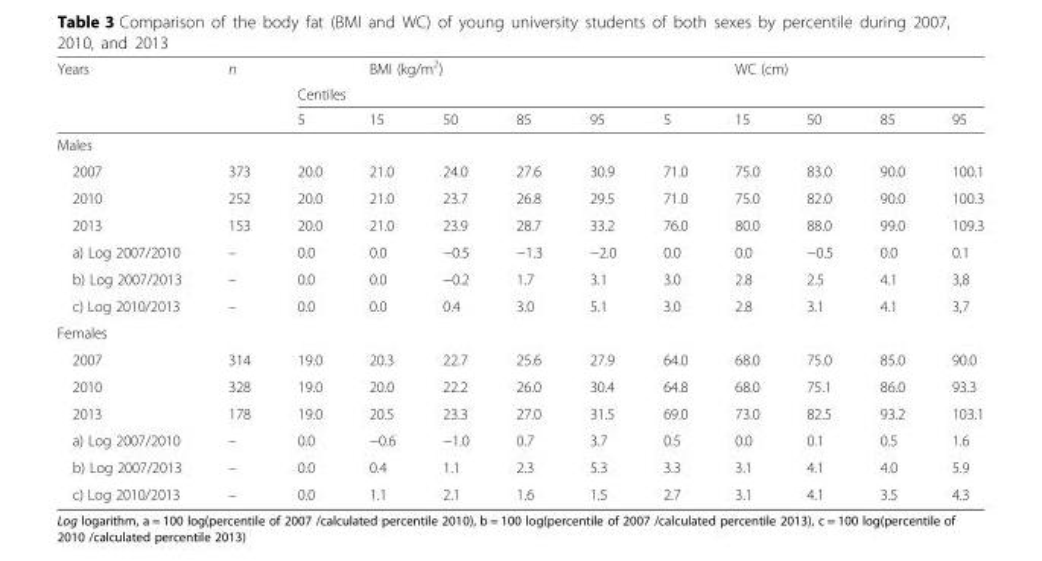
<table><thead><tr><td rowspan="3">Years</td><td rowspan="3">n</td><td></td><td colspan="4">BMI (kg/m<sup>2</sup>)</td><td></td><td colspan="4">WC (cm)</td></tr><tr><td colspan="10">Centiles</td></tr><tr><td>5</td><td>15</td><td>50</td><td>85</td><td>95</td><td>5</td><td>15</td><td>50</td><td>85</td><td>95</td></tr></thead><tbody><tr><td colspan="12">Males</td></tr><tr><td>2007</td><td>373</td><td>20.0</td><td>21.0</td><td>24.0</td><td>27.6</td><td>30.9</td><td>71.0</td><td>75.0</td><td>83.0</td><td>90.0</td><td>100.1</td></tr><tr><td>2010</td><td>252</td><td>20.0</td><td>21.0</td><td>23.7</td><td>26.8</td><td>29.5</td><td>71.0</td><td>75.0</td><td>82.0</td><td>90.0</td><td>100.3</td></tr><tr><td>2013</td><td>153</td><td>20.0</td><td>21.0</td><td>23.9</td><td>28.7</td><td>33.2</td><td>76.0</td><td>80.0</td><td>88.0</td><td>99.0</td><td>109.3</td></tr><tr><td>a) Log 2007/2010</td><td>–</td><td>0.0</td><td>0.0</td><td>−0.5</td><td>−1.3</td><td>−2.0</td><td>0.0</td><td>0.0</td><td>−0.5</td><td>0.0</td><td>0.1</td></tr><tr><td>b) Log 2007/2013</td><td>–</td><td>0.0</td><td>0.0</td><td>−0.2</td><td>1.7</td><td>3.1</td><td>3.0</td><td>2.8</td><td>2.5</td><td>4.1</td><td>3,8</td></tr><tr><td>c) Log 2010/2013</td><td>–</td><td>0.0</td><td>0.0</td><td>0.4</td><td>3.0</td><td>5.1</td><td>3.0</td><td>2.8</td><td>3.1</td><td>4.1</td><td>3,7</td></tr><tr><td colspan="12">Females</td></tr><tr><td>2007</td><td>314</td><td>19.0</td><td>20.3</td><td>22.7</td><td>25.6</td><td>27.9</td><td>64.0</td><td>68.0</td><td>75.0</td><td>85.0</td><td>90.0</td></tr><tr><td>2010</td><td>328</td><td>19.0</td><td>20.0</td><td>22.2</td><td>26.0</td><td>30.4</td><td>64.8</td><td>68.0</td><td>75.1</td><td>86.0</td><td>93.3</td></tr><tr><td>2013</td><td>178</td><td>19.0</td><td>20.5</td><td>23.3</td><td>27.0</td><td>31.5</td><td>69.0</td><td>73.0</td><td>82.5</td><td>93.2</td><td>103.1</td></tr><tr><td>a) Log 2007/2010</td><td>–</td><td>0.0</td><td>−0.6</td><td>−1.0</td><td>0.7</td><td>3.7</td><td>0.5</td><td>0.0</td><td>0.1</td><td>0.5</td><td>1.6</td></tr><tr><td>b) Log 2007/2013</td><td>–</td><td>0.0</td><td>0.4</td><td>1.1</td><td>2.3</td><td>5.3</td><td>3.3</td><td>3.1</td><td>4.1</td><td>4.0</td><td>5.9</td></tr><tr><td>c) Log 2010/2013</td><td>–</td><td>0.0</td><td>1.1</td><td>2.1</td><td>1.6</td><td>1.5</td><td>2.7</td><td>3.1</td><td>4.1</td><td>3.5</td><td>4.3</td></tr></tbody></table>